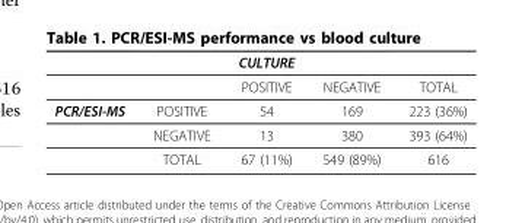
<table><thead><tr><td></td><td></td><td>CULTURE</td><td></td><td></td></tr></thead><tbody><tr><td></td><td></td><td>POSITIVE</td><td>NEGATIVE</td><td>TOTAL</td></tr><tr><td rowspan="3">PCR/ESI-MS</td><td>POSITIVE</td><td>54</td><td>169</td><td>223 (36%)</td></tr><tr><td>NEGATIVE</td><td>13</td><td>380</td><td>393 (64%)</td></tr><tr><td>TOTAL</td><td>67 (11%)</td><td>549 (89%)</td><td>616</td></tr></tbody></table>